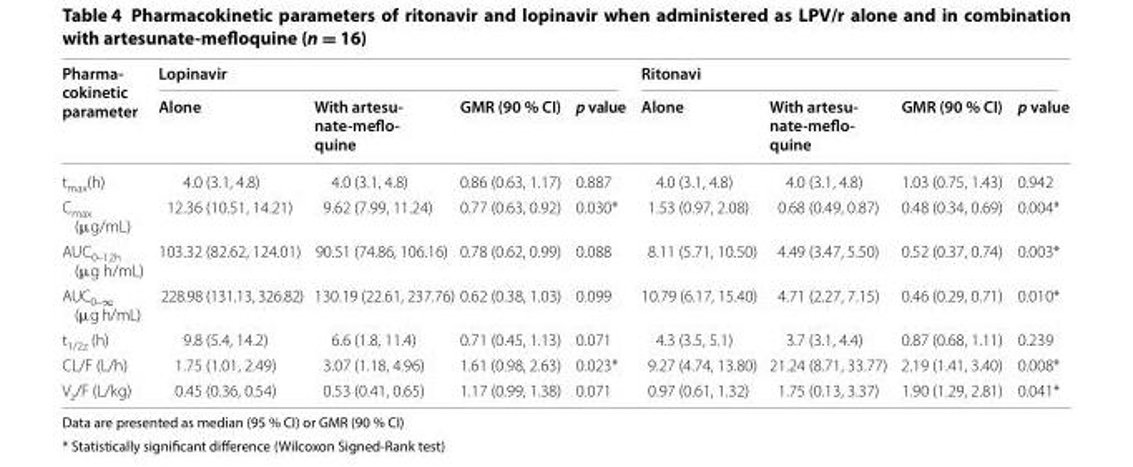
<table><thead><tr><td rowspan="2">Pharma‑ cokinetic parameter</td><td colspan="4">Lopinavir</td><td colspan="4">Ritonavi</td></tr><tr><td>Alone</td><td>With artesu‑ nate‑meflo‑ quine</td><td>GMR (90 % CI)</td><td>p value</td><td>Alone</td><td>With artesu‑ nate‑meflo‑ quine</td><td>GMR (90 % CI)</td><td>p value</td></tr></thead><tbody><tr><td>t<sub>max</sub>(h)</td><td>4.0 (3.1, 4.8)</td><td>4.0 (3.1, 4.8)</td><td>0.86 (0.63, 1.17)</td><td>0.887</td><td>4.0 (3.1, 4.8)</td><td>4.0 (3.1, 4.8)</td><td>1.03 (0.75, 1.43)</td><td>0.942</td></tr><tr><td>C<sub>max</sub> (μg/mL)</td><td>12.36 (10.51, 14.21)</td><td>9.62 (7.99, 11.24)</td><td>0.77 (0.63, 0.92)</td><td>0.030*</td><td>1.53 (0.97, 2.08)</td><td>0.68 (0.49, 0.87)</td><td>0.48 (0.34, 0.69)</td><td>0.004*</td></tr><tr><td>AUC<sub>0–12h</sub> (μg h/mL)</td><td>103.32 (82.62, 124.01)</td><td>90.51 (74.86, 106.16)</td><td>0.78 (0.62, 0.99)</td><td>0.088</td><td>8.11 (5.71, 10.50)</td><td>4.49 (3.47, 5.50)</td><td>0.52 (0.37, 0.74)</td><td>0.003*</td></tr><tr><td>AUC<sub>0–∞</sub> (μg h/mL)</td><td>228.98 (131.13, 326.82)</td><td>130.19 (22.61, 237.76)</td><td>0.62 (0.38, 1.03)</td><td>0.099</td><td>10.79 (6.17, 15.40)</td><td>4.71 (2.27, 7.15)</td><td>0.46 (0.29, 0.71)</td><td>0.010*</td></tr><tr><td>t<sub>1/2z</sub> (h)</td><td>9.8 (5.4, 14.2)</td><td>6.6 (1.8, 11.4)</td><td>0.71 (0.45, 1.13)</td><td>0.071</td><td>4.3 (3.5, 5.1)</td><td>3.7 (3.1, 4.4)</td><td>0.87 (0.68, 1.11)</td><td>0.239</td></tr><tr><td>CL/F (L/h)</td><td>1.75 (1.01, 2.49)</td><td>3.07 (1.18, 4.96)</td><td>1.61 (0.98, 2.63)</td><td>0.023*</td><td>9.27 (4.74, 13.80)</td><td>21.24 (8.71, 33.77)</td><td>2.19 (1.41, 3.40)</td><td>0.008*</td></tr><tr><td>V<sub>z</sub>/F (L/kg)</td><td>0.45 (0.36, 0.54)</td><td>0.53 (0.41, 0.65)</td><td>1.17 (0.99, 1.38)</td><td>0.071</td><td>0.97 (0.61, 1.32)</td><td>1.75 (0.13, 3.37)</td><td>1.90 (1.29, 2.81)</td><td>0.041*</td></tr></tbody></table>